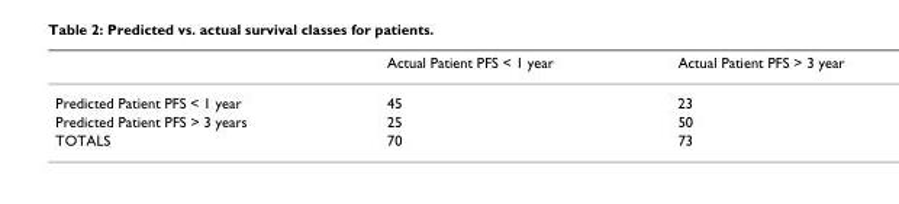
<table><thead><tr><td></td><td>Actual Patient PFS &lt; 1 year</td><td>Actual Patient PFS &gt; 3 year</td></tr></thead><tbody><tr><td>Predicted Patient PFS &lt; 1 year</td><td>45</td><td>23</td></tr><tr><td>Predicted Patient PFS &gt; 3 years</td><td>25</td><td>50</td></tr><tr><td>TOTALS</td><td>70</td><td>73</td></tr></tbody></table>